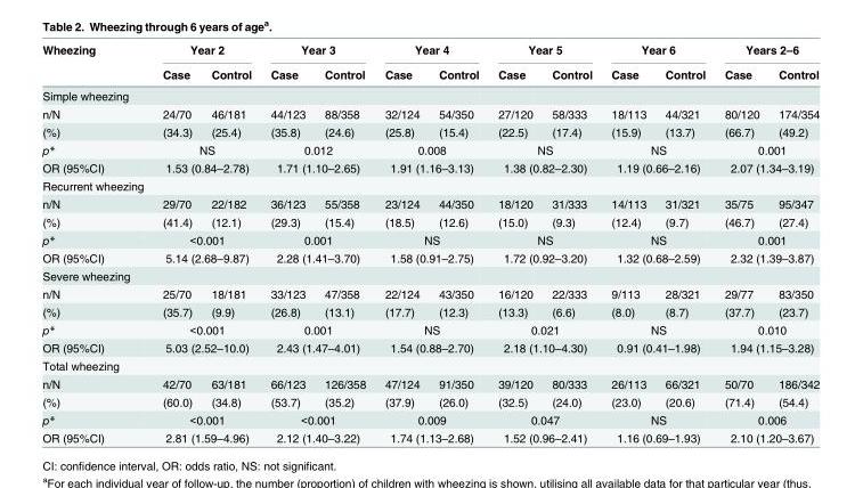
<table><thead><tr><td rowspan="2">Wheezing</td><td colspan="2">Year 2</td><td colspan="2">Year 3</td><td colspan="2">Year 4</td><td colspan="2">Year 5</td><td colspan="2">Year 6</td><td colspan="2">Years 2–6</td></tr><tr><td>Case</td><td>Control</td><td>Case</td><td>Control</td><td>Case</td><td>Control</td><td>Case</td><td>Control</td><td>Case</td><td>Control</td><td>Case</td><td>Control</td></tr></thead><tbody><tr><td colspan="13">Simple wheezing</td></tr><tr><td>n/N</td><td>24/70</td><td>46/181</td><td>44/123</td><td>88/358</td><td>32/124</td><td>54/350</td><td>27/120</td><td>58/333</td><td>18/113</td><td>44/321</td><td>80/120</td><td>174/354</td></tr><tr><td>(%)</td><td>(34.3)</td><td>(25.4)</td><td>(35.8)</td><td>(24.6)</td><td>(25.8)</td><td>(15.4)</td><td>(22.5)</td><td>(17.4)</td><td>(15.9)</td><td>(13.7)</td><td>(66.7)</td><td>(49.2)</td></tr><tr><td>p*</td><td colspan="2">NS</td><td colspan="2">0.012</td><td colspan="2">0.008</td><td colspan="2">NS</td><td colspan="2">NS</td><td colspan="2">0.001</td></tr><tr><td>OR (95%CI)</td><td colspan="2">1.53 (0.84–2.78)</td><td colspan="2">1.71 (1.10–2.65)</td><td colspan="2">1.91 (1.16–3.13)</td><td colspan="2">1.38 (0.82–2.30)</td><td colspan="2">1.19 (0.66–2.16)</td><td colspan="2">2.07 (1.34–3.19)</td></tr><tr><td colspan="13">Recurrent wheezing</td></tr><tr><td>n/N</td><td>29/70</td><td>22/182</td><td>36/123</td><td>55/358</td><td>23/124</td><td>44/350</td><td>18/120</td><td>31/333</td><td>14/113</td><td>31/321</td><td>35/75</td><td>95/347</td></tr><tr><td>(%)</td><td>(41.4)</td><td>(12.1)</td><td>(29.3)</td><td>(15.4)</td><td>(18.5)</td><td>(12.6)</td><td>(15.0)</td><td>(9.3)</td><td>(12.4)</td><td>(9.7)</td><td>(46.7)</td><td>(27.4)</td></tr><tr><td>p*</td><td colspan="2">&lt;0.001</td><td colspan="2">0.001</td><td colspan="2">NS</td><td colspan="2">NS</td><td colspan="2">NS</td><td colspan="2">0.001</td></tr><tr><td>OR (95%CI)</td><td colspan="2">5.14 (2.68–9.87)</td><td colspan="2">2.28 (1.41–3.70)</td><td colspan="2">1.58 (0.91–2.75)</td><td colspan="2">1.72 (0.92–3.20)</td><td colspan="2">1.32 (0.68–2.59)</td><td colspan="2">2.32 (1.39–3.87)</td></tr><tr><td colspan="13">Severe wheezing</td></tr><tr><td>n/N</td><td>25/70</td><td>18/181</td><td>33/123</td><td>47/358</td><td>22/124</td><td>43/350</td><td>16/120</td><td>22/333</td><td>9/113</td><td>28/321</td><td>29/77</td><td>83/350</td></tr><tr><td>(%)</td><td>(35.7)</td><td>(9.9)</td><td>(26.8)</td><td>(13.1)</td><td>(17.7)</td><td>(12.3)</td><td>(13.3)</td><td>(6.6)</td><td>(8.0)</td><td>(8.7)</td><td>(37.7)</td><td>(23.7)</td></tr><tr><td>p*</td><td colspan="2">&lt;0.001</td><td colspan="2">0.001</td><td colspan="2">NS</td><td colspan="2">0.021</td><td colspan="2">NS</td><td colspan="2">0.010</td></tr><tr><td>OR (95%CI)</td><td colspan="2">5.03 (2.52–10.0)</td><td colspan="2">2.43 (1.47–4.01)</td><td colspan="2">1.54 (0.88–2.70)</td><td colspan="2">2.18 (1.10–4.30)</td><td colspan="2">0.91 (0.41–1.98)</td><td colspan="2">1.94 (1.15–3.28)</td></tr><tr><td colspan="13">Total wheezing</td></tr><tr><td>n/N</td><td>42/70</td><td>63/181</td><td>66/123</td><td>126/358</td><td>47/124</td><td>91/350</td><td>39/120</td><td>80/333</td><td>26/113</td><td>66/321</td><td>50/70</td><td>186/342</td></tr><tr><td>(%)</td><td>(60.0)</td><td>(34.8)</td><td>(53.7)</td><td>(35.2)</td><td>(37.9)</td><td>(26.0)</td><td>(32.5)</td><td>(24.0)</td><td>(23.0)</td><td>(20.6)</td><td>(71.4)</td><td>(54.4)</td></tr><tr><td>p*</td><td colspan="2">&lt;0.001</td><td colspan="2">&lt;0.001</td><td colspan="2">0.009</td><td colspan="2">0.047</td><td colspan="2">NS</td><td colspan="2">0.006</td></tr><tr><td>OR (95%CI)</td><td colspan="2">2.81 (1.59–4.96)</td><td colspan="2">2.12 (1.40–3.22)</td><td colspan="2">1.74 (1.13–2.68)</td><td colspan="2">1.52 (0.96–2.41)</td><td colspan="2">1.16 (0.69–1.93)</td><td colspan="2">2.10 (1.20–3.67)</td></tr></tbody></table>